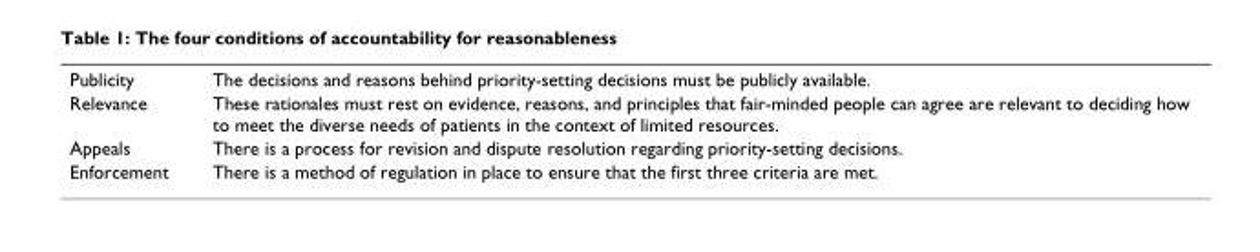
<table><tbody><tr><td>Publicity</td><td>The decisions and reasons behind priority-setting decisions must be publicly available.</td></tr><tr><td>Relevance</td><td>These rationales must rest on evidence, reasons, and principles that fair-minded people can agree are relevant to deciding how to meet the diverse needs of patients in the context of limited resources.</td></tr><tr><td>Appeals</td><td>There is a process for revision and dispute resolution regarding priority-setting decisions.</td></tr><tr><td>Enforcement</td><td>There is a method of regulation in place to ensure that the first three criteria are met.</td></tr></tbody></table>